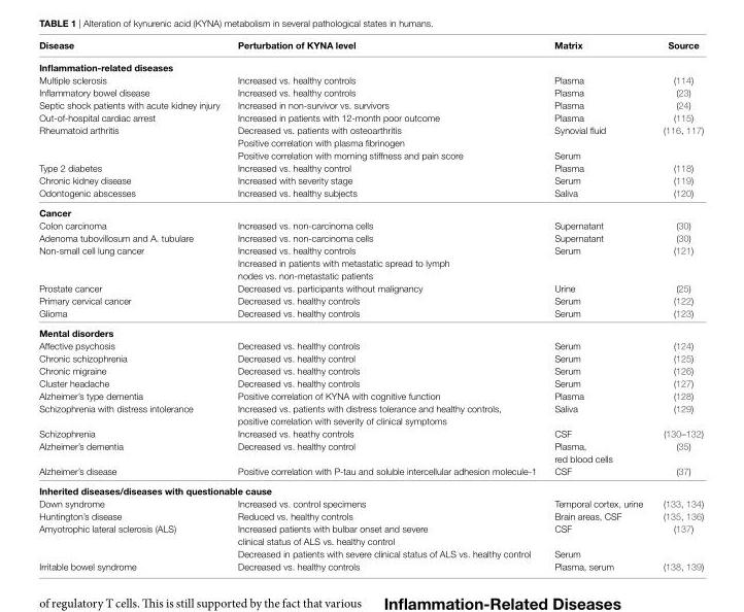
<table><thead><tr><td>Disease</td><td>Perturbation of KYNA level</td><td>Matrix</td><td>Source</td></tr></thead><tbody><tr><td colspan="4">inflammation-related diseases</td></tr><tr><td>Multiple sclerosis</td><td>Increased vs. healthy controls</td><td>Plasma</td><td>(114)</td></tr><tr><td>Inflammatory bowel disease</td><td>Increased vs. healthy controls</td><td>Plasma</td><td>(23)</td></tr><tr><td>Septic shock patients with acute kidney injury</td><td>Increased in non-survivor vs. survivors</td><td>Plasma</td><td>(24)</td></tr><tr><td>Out-of-hospital cardiac arrest</td><td>Increased in patients with 12-month poor outcome</td><td>Plasma</td><td>(115)</td></tr><tr><td rowspan="3">Rheumatoid arthritis</td><td>Decreased vs. patients with osteoarthritis</td><td>Synovial fluid</td><td>(116, 117)</td></tr><tr><td>Positive correlation with plasma fibrinogen</td><td></td><td></td></tr><tr><td>Positive correlation with morning stiffness and pain score</td><td>Serum</td><td></td></tr><tr><td>Type 2 diabetes</td><td>Increased vs. healthy control</td><td>Plasma</td><td>(118)</td></tr><tr><td>Chronic kidney disease</td><td>Increased with severity stage</td><td>Serum</td><td>(119)</td></tr><tr><td>Odontogenic abscesses</td><td>Increased vs. healthy subjects</td><td>Saliva</td><td>(120)</td></tr><tr><td colspan="4">Cancer</td></tr><tr><td>Colon carcinoma</td><td>Increased vs. non-carcinoma cells</td><td>Supernatant</td><td>(30)</td></tr><tr><td>Adenoma tubovillosum and A. tubulare</td><td>Increased vs. non-carcinoma cells</td><td>Supernatant</td><td>(30)</td></tr><tr><td rowspan="2">Non-small cell lung cancer</td><td>Increased vs. healthy controls</td><td>Serum</td><td>(121)</td></tr><tr><td>Increased in patients with metastatic spread to lymph nodes vs. non-metastatic patients</td><td></td><td></td></tr><tr><td>Prostate cancer</td><td>Decreased vs. participants without malignancy</td><td>Urine</td><td>(25)</td></tr><tr><td>Primary cervical cancer</td><td>Decreased vs. healthy controls</td><td>Serum</td><td>(122)</td></tr><tr><td>Glioma</td><td>Decreased vs. healthy controls</td><td>Serum</td><td>(123)</td></tr><tr><td colspan="4">Mental disorders</td></tr><tr><td>Affective psychosis</td><td>Decreased vs. healthy controls</td><td>Serum</td><td>(124)</td></tr><tr><td>Chronic schizophrenia</td><td>Decreased vs. healthy control</td><td>Serum</td><td>(125)</td></tr><tr><td>Chronic migraine</td><td>Decreased vs. healthy controls</td><td>Serum</td><td>(126)</td></tr><tr><td>Cluster headache</td><td>Decreased vs. healthy controls</td><td>Serum</td><td>(127)</td></tr><tr><td>Alzheimer’s type dementia</td><td>Positive correlation of KYNA with cognitive function</td><td>Plasma</td><td>(128)</td></tr><tr><td>Schizophrenia with distress intolerance</td><td>Increased vs. patients with distress tolerance and healthy controls, positive correlation with severity of clinical symptoms</td><td>Saliva</td><td>(129)</td></tr><tr><td>Schizophrenia</td><td>Increased vs. heathy controls</td><td>CSF</td><td>(130–132)</td></tr><tr><td>Alzheimer’s dementia</td><td>Decreased vs. healthy control</td><td>Plasma, red blood cells</td><td>(35)</td></tr><tr><td>Alzheimer’s disease</td><td>Positive correlation with P-tau and soluble intercellular adhesion molecule-1</td><td>CSF</td><td>(37)</td></tr><tr><td colspan="4">inherited diseases/diseases with questionable cause</td></tr><tr><td>Down syndrome</td><td>Increased vs. control specimens</td><td>Temporal cortex, urine</td><td>(133, 134)</td></tr><tr><td>Huntington’s disease</td><td>Reduced vs. healthy controls</td><td>Brain areas, CSF</td><td>(135, 136)</td></tr><tr><td rowspan="2">Amyotrophic lateral sclerosis (ALS)</td><td>Increased patients with bulbar onset and severe clinical status of ALS vs. healthy control</td><td>CSF</td><td>(137)</td></tr><tr><td>Decreased in patients with severe clinical status of ALS vs. healthy control</td><td>Serum</td><td></td></tr><tr><td>Irritable bowel syndrome</td><td>Decreased vs. healthy controls</td><td>Plasma, serum</td><td>(138, 139)</td></tr></tbody></table>